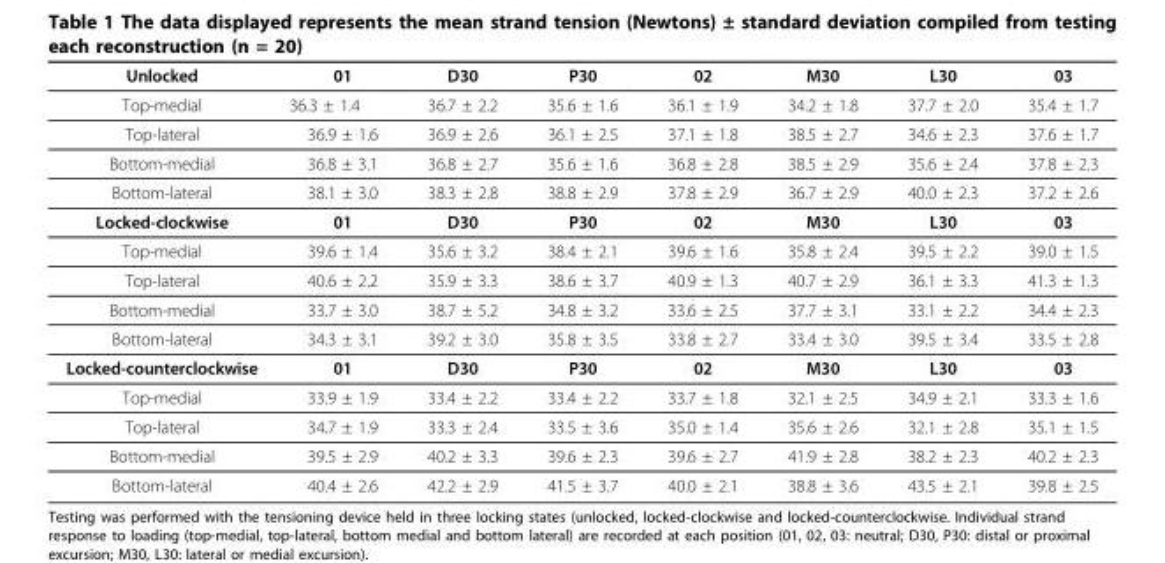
<table><thead><tr><td>Unlocked</td><td>01</td><td>D30</td><td>P30</td><td>02</td><td>M30</td><td>L30</td><td>03</td></tr></thead><tbody><tr><td>Top-medial</td><td>36.3 ± 1.4</td><td>36.7 ± 2.2</td><td>35.6 ± 1.6</td><td>36.1 ± 1.9</td><td>34.2 ± 1.8</td><td>37.7 ± 2.0</td><td>35.4 ± 1.7</td></tr><tr><td>Top-lateral</td><td>36.9 ± 1.6</td><td>36.9 ± 2.6</td><td>36.1 ± 2.5</td><td>37.1 ± 1.8</td><td>38.5 ± 2.7</td><td>34.6 ± 2.3</td><td>37.6 ± 1.7</td></tr><tr><td>Bottom-medial</td><td>36.8 ± 3.1</td><td>36.8 ± 2.7</td><td>35.6 ± 1.6</td><td>36.8 ± 2.8</td><td>38.5 ± 2.9</td><td>35.6 ± 2.4</td><td>37.8 ± 2.3</td></tr><tr><td>Bottom-lateral</td><td>38.1 ± 3.0</td><td>38.3 ± 2.8</td><td>38.8 ± 2.9</td><td>37.8 ± 2.9</td><td>36.7 ± 2.9</td><td>40.0 ± 2.3</td><td>37.2 ± 2.6</td></tr><tr><td>Locked-clockwise</td><td>01</td><td>D30</td><td>P30</td><td>02</td><td>M30</td><td>L30</td><td>03</td></tr><tr><td>Top-medial</td><td>39.6 ± 1.4</td><td>35.6 ± 3.2</td><td>38.4 ± 2.1</td><td>39.6 ± 1.6</td><td>35.8 ± 2.4</td><td>39.5 ± 2.2</td><td>39.0 ± 1.5</td></tr><tr><td>Top-lateral</td><td>40.6 ± 2.2</td><td>35.9 ± 3.3</td><td>38.6 ± 3.7</td><td>40.9 ± 1.3</td><td>40.7 ± 2.9</td><td>36.1 ± 3.3</td><td>41.3 ± 1.3</td></tr><tr><td>Bottom-medial</td><td>33.7 ± 3.0</td><td>38.7 ± 5.2</td><td>34.8 ± 3.2</td><td>33.6 ± 2.5</td><td>37.7 ± 3.1</td><td>33.1 ± 2.2</td><td>34.4 ± 2.3</td></tr><tr><td>Bottom-lateral</td><td>34.3 ± 3.1</td><td>39.2 ± 3.0</td><td>35.8 ± 3.5</td><td>33.8 ± 2.7</td><td>33.4 ± 3.0</td><td>39.5 ± 3.4</td><td>33.5 ± 2.8</td></tr><tr><td>Locked-counterclockwise</td><td>01</td><td>D30</td><td>P30</td><td>02</td><td>M30</td><td>L30</td><td>03</td></tr><tr><td>Top-medial</td><td>33.9 ± 1.9</td><td>33.4 ± 2.2</td><td>33.4 ± 2.2</td><td>33.7 ± 1.8</td><td>32.1 ± 2.5</td><td>34.9 ± 2.1</td><td>33.3 ± 1.6</td></tr><tr><td>Top-lateral</td><td>34.7 ± 1.9</td><td>33.3 ± 2.4</td><td>33.5 ± 3.6</td><td>35.0 ± 1.4</td><td>35.6 ± 2.6</td><td>32.1 ± 2.8</td><td>35.1 ± 1.5</td></tr><tr><td>Bottom-medial</td><td>39.5 ± 2.9</td><td>40.2 ± 3.3</td><td>39.6 ± 2.3</td><td>39.6 ± 2.7</td><td>41.9 ± 2.8</td><td>38.2 ± 2.3</td><td>40.2 ± 2.3</td></tr><tr><td>Bottom-lateral</td><td>40.4 ± 2.6</td><td>42.2 ± 2.9</td><td>41.5 ± 3.7</td><td>40.0 ± 2.1</td><td>38.8 ± 3.6</td><td>43.5 ± 2.1</td><td>39.8 ± 2.5</td></tr></tbody></table>